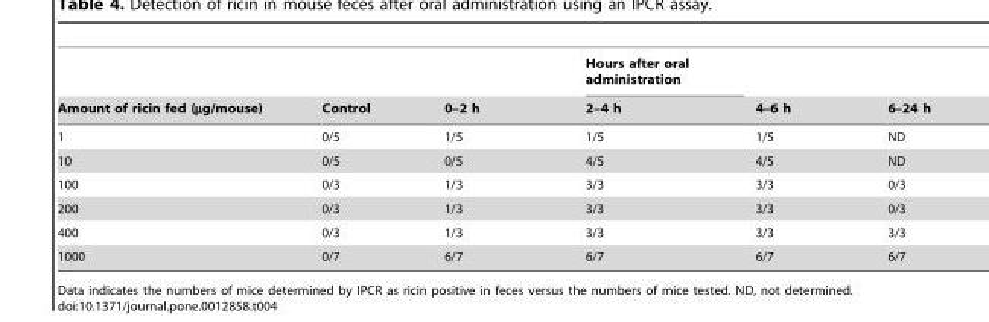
<table><thead><tr><td rowspan="2">Amount of ricin fed (µg/mouse)</td><td rowspan="2">Control</td><td rowspan="2">0–2 h</td><td rowspan="2">Hours after oral administration 2–4 h</td><td rowspan="2">4–6 h</td><td rowspan="2">6–24 h</td></tr><tr></tr></thead><tbody><tr><td>1</td><td>0/5</td><td>1/5</td><td>1/5</td><td>1/5</td><td>ND</td></tr><tr><td>10</td><td>0/5</td><td>0/5</td><td>4/5</td><td>4/5</td><td>ND</td></tr><tr><td>100</td><td>0/3</td><td>1/3</td><td>3/3</td><td>3/3</td><td>0/3</td></tr><tr><td>200</td><td>0/3</td><td>1/3</td><td>3/3</td><td>3/3</td><td>0/3</td></tr><tr><td>400</td><td>0/3</td><td>1/3</td><td>3/3</td><td>3/3</td><td>3/3</td></tr><tr><td>1000</td><td>0/7</td><td>6/7</td><td>6/7</td><td>6/7</td><td>6/7</td></tr></tbody></table>